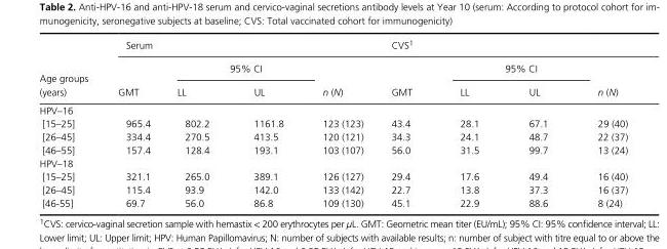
<table><thead><tr><td rowspan="3">Age groups (years)</td><td colspan="4">Serum</td><td colspan="4">CVS1</td></tr><tr><td rowspan="2">GMT</td><td colspan="2">95% CI</td><td rowspan="2">n (N)</td><td rowspan="2">GMT</td><td colspan="2">95% CI</td><td rowspan="2">n (N)</td></tr><tr><td>LL</td><td>UL</td><td>LL</td><td>UL</td></tr></thead><tbody><tr><td colspan="9">HPV–16</td></tr><tr><td>[15–25]</td><td>965.4</td><td>802.2</td><td>1161.8</td><td>123 (123)</td><td>43.4</td><td>28.1</td><td>67.1</td><td>29 (40)</td></tr><tr><td>[26–45]</td><td>334.4</td><td>270.5</td><td>413.5</td><td>120 (121)</td><td>34.3</td><td>24.1</td><td>48.7</td><td>22 (37)</td></tr><tr><td>[46–55]</td><td>157.4</td><td>128.4</td><td>193.1</td><td>103 (107)</td><td>56.0</td><td>31.5</td><td>99.7</td><td>13 (24)</td></tr><tr><td colspan="9">HPV–18</td></tr><tr><td>[15–25]</td><td>321.1</td><td>265.0</td><td>389.1</td><td>126 (127)</td><td>29.4</td><td>17.6</td><td>49.4</td><td>16 (40)</td></tr><tr><td>[26–45]</td><td>115.4</td><td>93.9</td><td>142.0</td><td>133 (142)</td><td>22.7</td><td>13.8</td><td>37.3</td><td>16 (37)</td></tr><tr><td>[46- 55]</td><td>69.7</td><td>56.0</td><td>86.8</td><td>109 (130)</td><td>45.1</td><td>22.9</td><td>88.6</td><td>8 (24)</td></tr></tbody></table>